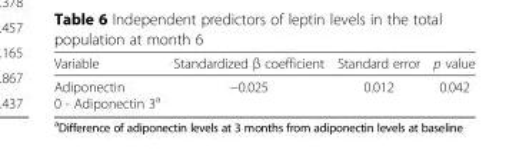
<table><thead><tr><td>Variable</td><td>Standardized β coefficient</td><td>Standard error</td><td>p value</td></tr></thead><tbody><tr><td>Adiponectin 0 - Adiponectin 3<sup>a</sup></td><td>−0.025</td><td>0.012</td><td>0.042</td></tr></tbody></table>